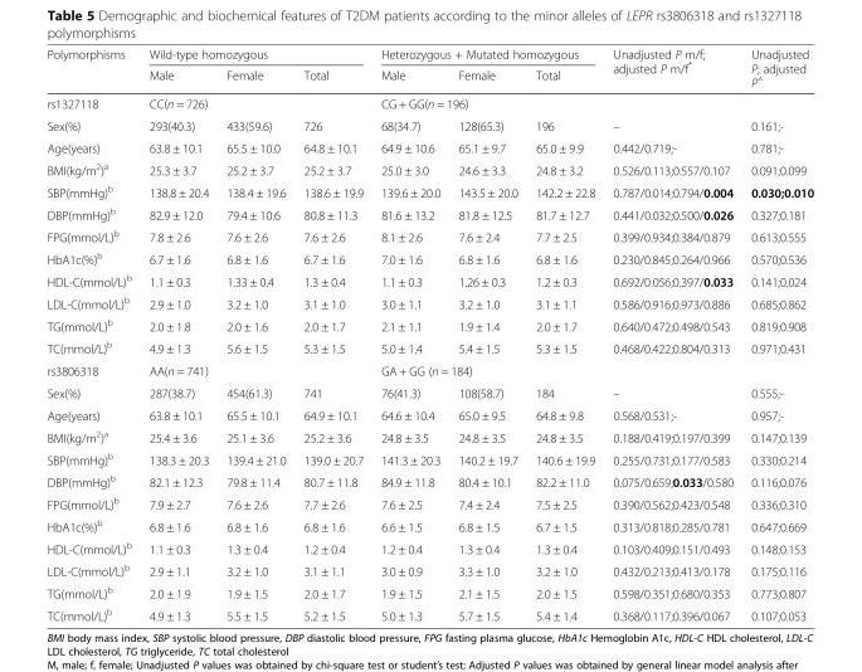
<table><thead><tr><td rowspan="2">Polymorphisms</td><td colspan="3">Wild-type homozygous</td><td colspan="3">Heterozygous + Mutated homozygous</td><td rowspan="2">Unadjusted P m/f; adjusted P m/f*</td><td rowspan="2">Unadjusted P; adjusted P<sup>△</sup></td></tr><tr><td>Male</td><td>Female</td><td>Total</td><td>Male</td><td>Female</td><td>Total</td></tr></thead><tbody><tr><td>rs1327118</td><td colspan="3">CC(n = 726)</td><td colspan="3">CG + GG(n = 196)</td><td></td><td></td></tr><tr><td>Sex(%)</td><td>293(40.3)</td><td>433(59.6)</td><td>726</td><td>68(34.7)</td><td>128(65.3)</td><td>196</td><td>–</td><td>0.161;-</td></tr><tr><td>Age(years)</td><td>63.8 ± 10.1</td><td>65.5 ± 10.0</td><td>64.8 ± 10.1</td><td>64.9 ± 10.6</td><td>65.1 ± 9.7</td><td>65.0 ± 9.9</td><td>0.442/0.719;-</td><td>0.781;-</td></tr><tr><td>BMI(kg/m<sup>2</sup>)<sup>a</sup></td><td>25.3 ± 3.7</td><td>25.2 ± 3.7</td><td>25.2 ± 3.7</td><td>25.0 ± 3.0</td><td>24.6 ± 3.3</td><td>24.8 ± 3.2</td><td>0.526/0.113;0.557/0.107</td><td>0.091;0.099</td></tr><tr><td>SBP(mmHg)<sup>b</sup></td><td>138.8 ± 20.4</td><td>138.4 ± 19.6</td><td>138.6 ± 19.9</td><td>139.6 ± 20.0</td><td>143.5 ± 20.0</td><td>142.2 ± 22.8</td><td>0.787/0.014;0.794/0.004</td><td>0.030;0.010</td></tr><tr><td>DBP(mmHg)<sup>b</sup></td><td>82.9 ± 12.0</td><td>79.4 ± 10.6</td><td>80.8 ± 11.3</td><td>81.6 ± 13.2</td><td>81.8 ± 12.5</td><td>81.7 ± 12.7</td><td>0.441/0.032;0.500/0.026</td><td>0.327;0.181</td></tr><tr><td>FPG(mmol/L)<sup>b</sup></td><td>7.8 ± 2.6</td><td>7.6 ± 2.6</td><td>7.6 ± 2.6</td><td>8.1 ± 2.6</td><td>7.6 ± 2.4</td><td>7.7 ± 2.5</td><td>0.399/0.934;0.384/0.879</td><td>0.613;0.555</td></tr><tr><td>HbA1c(%)<sup>b</sup></td><td>6.7 ± 1.6</td><td>6.8 ± 1.6</td><td>6.7 ± 1.6</td><td>7.0 ± 1.6</td><td>6.8 ± 1.6</td><td>6.8 ± 1.6</td><td>0.230/0.845;0.264/0.966</td><td>0.570;0.536</td></tr><tr><td>HDL-C(mmol/L)<sup>b</sup></td><td>1.1 ± 0.3</td><td>1.33 ± 0.4</td><td>1.3 ± 0.4</td><td>1.1 ± 0.3</td><td>1.26 ± 0.3</td><td>1.2 ± 0.3</td><td>0.692/0.056;0.397/0.033</td><td>0.141;0.024</td></tr><tr><td>LDL-C(mmol/L)<sup>b</sup></td><td>2.9 ± 1.0</td><td>3.2 ± 1.0</td><td>3.1 ± 1.0</td><td>3.0 ± 1.1</td><td>3.2 ± 1.0</td><td>3.1 ± 1.1</td><td>0.586/0.916;0.973/0.886</td><td>0.685;0.862</td></tr><tr><td>TG(mmol/L)<sup>b</sup></td><td>2.0 ± 1.8</td><td>2.0 ± 1.6</td><td>2.0 ± 1.7</td><td>2.1 ± 1.1</td><td>1.9 ± 1.4</td><td>2.0 ± 1.7</td><td>0.640/0.472;0.498/0.543</td><td>0.819;0.908</td></tr><tr><td>TC(mmol/L)<sup>b</sup></td><td>4.9 ± 1.3</td><td>5.6 ± 1.5</td><td>5.3 ± 1.5</td><td>5.0 ± 1.4</td><td>5.4 ± 1.5</td><td>5.3 ± 1.5</td><td>0.468/0.422;0.804/0.313</td><td>0.971;0.431</td></tr><tr><td>rs3806318</td><td colspan="3">AA(n = 741)</td><td colspan="3">GA + GG (n = 184)</td><td></td><td></td></tr><tr><td>Sex(%)</td><td>287(38.7)</td><td>454(61.3)</td><td>741</td><td>76(41.3)</td><td>108(58.7)</td><td>184</td><td>–</td><td>0.555;-</td></tr><tr><td>Age(years)</td><td>63.8 ± 10.1</td><td>65.5 ± 10.1</td><td>64.9 ± 10.1</td><td>64.6 ± 10.4</td><td>65.0 ± 9.5</td><td>64.8 ± 9.8</td><td>0.568/0.531;-</td><td>0.957;-</td></tr><tr><td>BMI(kg/m<sup>2</sup>)<sup>a</sup></td><td>25.4 ± 3.6</td><td>25.1 ± 3.6</td><td>25.2 ± 3.6</td><td>24.8 ± 3.5</td><td>24.8 ± 3.5</td><td>24.8 ± 3.5</td><td>0.188/0.419;0.197/0.399</td><td>0.147;0.139</td></tr><tr><td>SBP(mmHg)<sup>b</sup></td><td>138.3 ± 20.3</td><td>139.4 ± 21.0</td><td>139.0 ± 20.7</td><td>141.3 ± 20.3</td><td>140.2 ± 19.7</td><td>140.6 ± 19.9</td><td>0.255/0.731;0.177/0.583</td><td>0.330;0.214</td></tr><tr><td>DBP(mmHg)<sup>b</sup></td><td>82.1 ± 12.3</td><td>79.8 ± 11.4</td><td>80.7 ± 11.8</td><td>84.9 ± 11.8</td><td>80.4 ± 10.1</td><td>82.2 ± 11.0</td><td>0.075/0.659;0.033/0.580</td><td>0.116;0.076</td></tr><tr><td>FPG(mmol/L)<sup>b</sup></td><td>7.9 ± 2.7</td><td>7.6 ± 2.6</td><td>7.7 ± 2.6</td><td>7.6 ± 2.5</td><td>7.4 ± 2.4</td><td>7.5 ± 2.5</td><td>0.390/0.562;0.423/0.548</td><td>0.336;0.310</td></tr><tr><td>HbA1c(%)<sup>b</sup></td><td>6.8 ± 1.6</td><td>6.8 ± 1.6</td><td>6.8 ± 1.6</td><td>6.6 ± 1.5</td><td>6.8 ± 1.5</td><td>6.7 ± 1.5</td><td>0.313/0.818;0.285/0.781</td><td>0.647;0.669</td></tr><tr><td>HDL-C(mmol/L)<sup>b</sup></td><td>1.1 ± 0.3</td><td>1.3 ± 0.4</td><td>1.2 ± 0.4</td><td>1.2 ± 0.4</td><td>1.3 ± 0.4</td><td>1.3 ± 0.4</td><td>0.103/0.409;0.151/0.493</td><td>0.148;0.153</td></tr><tr><td>LDL-C(mmol/L)<sup>b</sup></td><td>2.9 ± 1.1</td><td>3.2 ± 1.0</td><td>3.1 ± 1.1</td><td>3.0 ± 0.9</td><td>3.3 ± 1.0</td><td>3.2 ± 1.0</td><td>0.432/0.213;0.413/0.178</td><td>0.175;0.116</td></tr><tr><td>TG(mmol/L)<sup>b</sup></td><td>2.0 ± 1.9</td><td>1.9 ± 1.5</td><td>2.0 ± 1.7</td><td>1.9 ± 1.5</td><td>2.1 ± 1.5</td><td>2.0 ± 1.5</td><td>0.598/0.351;0.680/0.353</td><td>0.773;0.807</td></tr><tr><td>TC(mmol/L)<sup>b</sup></td><td>4.9 ± 1.3</td><td>5.5 ± 1.5</td><td>5.2 ± 1.5</td><td>5.0 ± 1.3</td><td>5.7 ± 1.5</td><td>5.4 ± 1.4</td><td>0.368/0.117;0.396/0.067</td><td>0.107;0.053</td></tr></tbody></table>